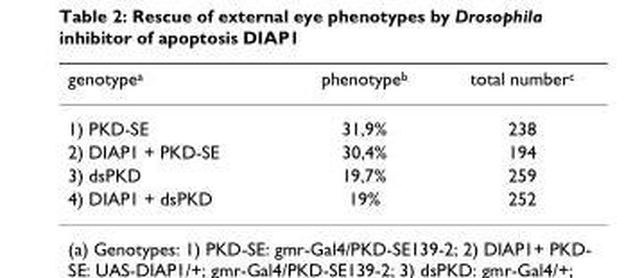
<table><thead><tr><td>genotype<sup>a</sup></td><td>phenotype<sup>b</sup></td><td>total number<sup>c</sup></td></tr></thead><tbody><tr><td>1) PKD-SE</td><td>31,9%</td><td>238</td></tr><tr><td>2) DIAP1 + PKD-SE</td><td>30,4%</td><td>194</td></tr><tr><td>3) dsPKD</td><td>19,7%</td><td>259</td></tr><tr><td>4) DIAP1 + dsPKD</td><td>19%</td><td>252</td></tr></tbody></table>